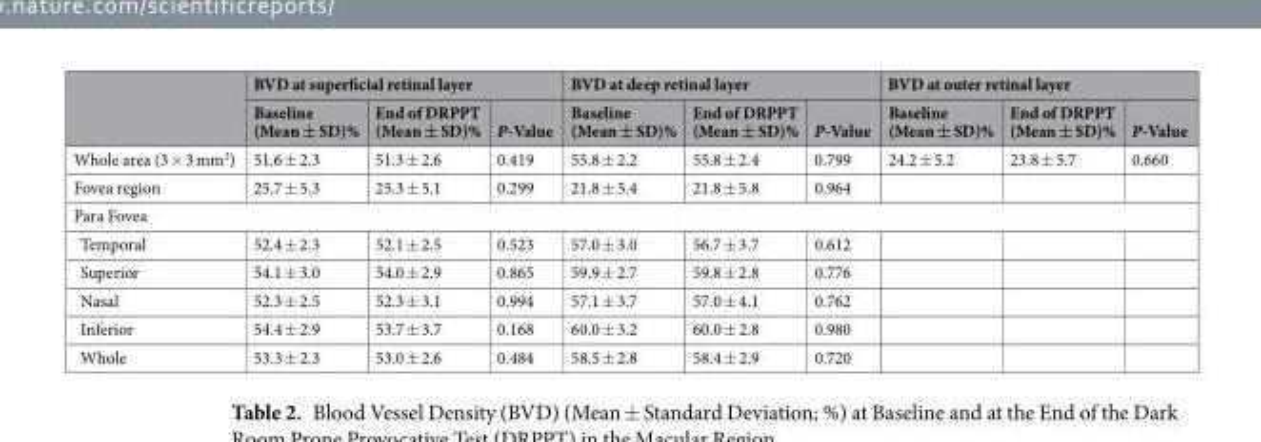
<table><thead><tr><td rowspan="2"></td><td colspan="3">BVD at superficial retinal layer</td><td colspan="3">BVD at deep retinal layer</td><td colspan="3">BVD at outer retinal layer</td></tr><tr><td>Baseline (Mean ± SD)%</td><td>End of DRPPT (Mean ± SD)%</td><td>P-Value</td><td>Baseline (Mean ± SD)%</td><td>End of DRPPT (Mean ± SD)%</td><td>P-Value</td><td>Baseline (Mean ± SD)%</td><td>End of DRPPT (Mean ± SD)%</td><td>P-Value</td></tr></thead><tbody><tr><td>Whole area (3 × 3 mm<sup>2</sup>)</td><td>51.6 ± 2.3</td><td>51.3 ± 2.6</td><td>0.419</td><td>55.8 ± 2.2</td><td>55.8 ± 2.4</td><td>0.799</td><td>24.2 ± 5.2</td><td>23.8 ± 5.7</td><td>0.660</td></tr><tr><td>Fovea region</td><td>25.7 ± 5.3</td><td>25.3 ± 5.1</td><td>0.299</td><td>21.8 ± 5.4</td><td>21.8 ± 5.8</td><td>0.964</td><td></td><td></td><td></td></tr><tr><td colspan="10">Para Fovea</td></tr><tr><td>Temporal</td><td>52.4 ± 2.3</td><td>52.1 ± 2.5</td><td>0.523</td><td>57.0 ± 3.0</td><td>56.7 ± 3.7</td><td>0.612</td><td></td><td></td><td></td></tr><tr><td>Superior</td><td>54.1 ± 3.0</td><td>54.0 ± 2.9</td><td>0.865</td><td>59.9 ± 2.7</td><td>59.8 ± 2.8</td><td>0.776</td><td></td><td></td><td></td></tr><tr><td>Nasal</td><td>52.3 ± 2.5</td><td>52.3 ± 3.1</td><td>0.994</td><td>57.1 ± 3.7</td><td>57.0 ± 4.1</td><td>0.762</td><td></td><td></td><td></td></tr><tr><td>Inferior</td><td>54.4 ± 2.9</td><td>53.7 ± 3.7</td><td>0.168</td><td>60.0 ± 3.2</td><td>60.0 ± 2.8</td><td>0.980</td><td></td><td></td><td></td></tr><tr><td>Whole</td><td>53.3 ± 2.3</td><td>53.0 ± 2.6</td><td>0.484</td><td>58.5 ± 2.8</td><td>58.4 ± 2.9</td><td>0.720</td><td></td><td></td><td></td></tr></tbody></table>